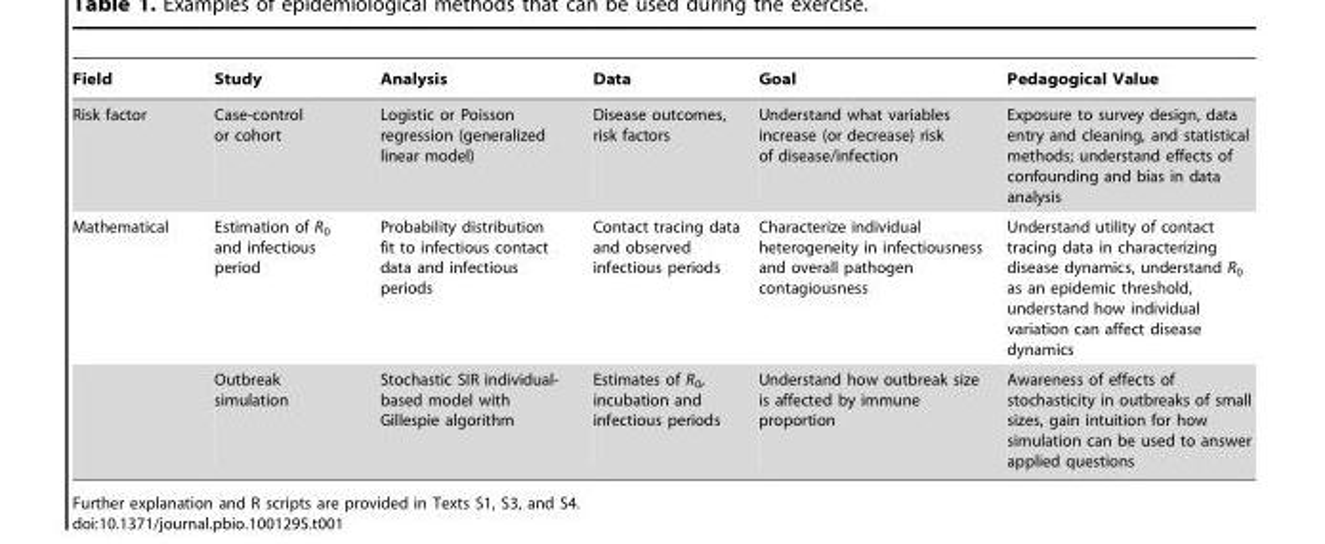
<table><thead><tr><td>Field</td><td>Study</td><td>Analysis</td><td>Data</td><td>Goal</td><td>Pedagogical Value</td></tr></thead><tbody><tr><td>Risk factor</td><td>Case-control or cohort</td><td>Logistic or Poisson regression (generalized linear model)</td><td>Disease outcomes, risk factors</td><td>Understand what variables increase (or decrease) risk of disease/infection</td><td>Exposure to survey design, data entry and cleaning, and statistical methods; understand effects of confounding and bias in data analysis</td></tr><tr><td rowspan="2">Mathematical</td><td>Estimation of R<sub>0</sub> and infectious period</td><td>Probability distribution fit to infectious contact data and infectious periods</td><td>Contact tracing data and observed infectious periods</td><td>Characterize individual heterogeneity in infectiousness and overall pathogen contagiousness</td><td>Understand utility of contact tracing data in characterizing disease dynamics, understand R<sub>0</sub> as an epidemic threshold, understand how individual variation can affect disease dynamics</td></tr><tr><td>Outbreak simulation</td><td>Stochastic SIR individual- based model with Gillespie algorithm</td><td>Estimates of R<sub>0</sub>, incubation and infectious periods</td><td>Understand how outbreak size is affected by immune proportion</td><td>Awareness of effects of stochasticity in outbreaks of small sizes, gain intuition for how simulation can be used to answer applied questions</td></tr></tbody></table>